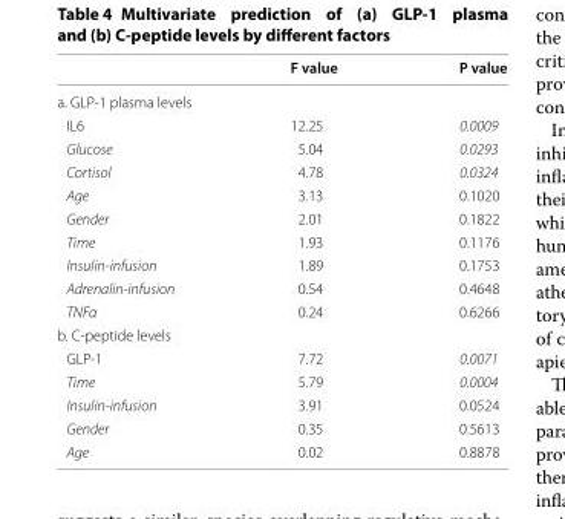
<table><thead><tr><td></td><td>F value</td><td>P value</td></tr></thead><tbody><tr><td colspan="3">a. GLP-1 plasma levels</td></tr><tr><td>IL6</td><td>12.25</td><td>0.0009</td></tr><tr><td>Glucose</td><td>5.04</td><td>0.0293</td></tr><tr><td>Cortisol</td><td>4.78</td><td>0.0324</td></tr><tr><td>Age</td><td>3.13</td><td>0.1020</td></tr><tr><td>Gender</td><td>2.01</td><td>0.1822</td></tr><tr><td>Time</td><td>1.93</td><td>0.1176</td></tr><tr><td>Insulin-infusion</td><td>1.89</td><td>0.1753</td></tr><tr><td>Adrenalin-infusion</td><td>0.54</td><td>0.4648</td></tr><tr><td>TNFα</td><td>0.24</td><td>0.6266</td></tr><tr><td colspan="3">b. C-peptide levels</td></tr><tr><td>GLP-1</td><td>7.72</td><td>0.0071</td></tr><tr><td>Time</td><td>5.79</td><td>0.0004</td></tr><tr><td>Insulin-infusion</td><td>3.91</td><td>0.0524</td></tr><tr><td>Gender</td><td>0.35</td><td>0.5613</td></tr><tr><td>Age</td><td>0.02</td><td>0.8878</td></tr></tbody></table>